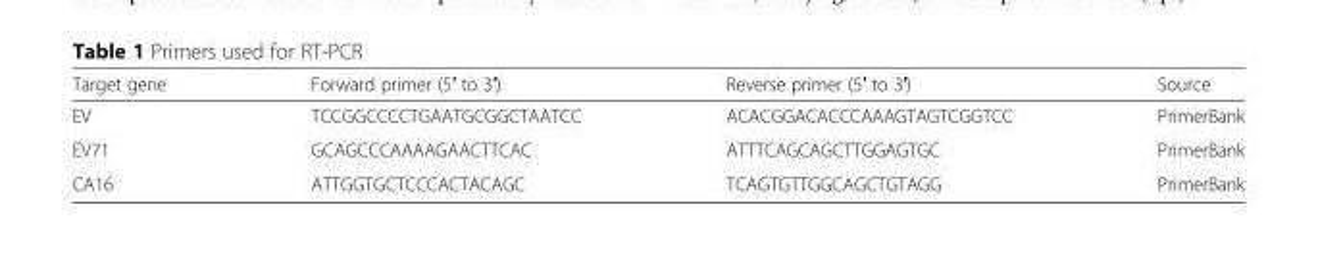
<table><thead><tr><td>Target gene</td><td>Forward primer (5′ to 3′)</td><td>Reverse primer (5′ to 3′)</td><td>Source</td></tr></thead><tbody><tr><td>EV</td><td>TCCGGCCCCTGAATGCGGCTAATCC</td><td>ACACGGACACCCAAAGTAGTCGGTCC</td><td>PrimerBank</td></tr><tr><td>EV71</td><td>GCAGCCCAAAAGAACTTCAC</td><td>ATTTCAGCAGCTTGGAGTGC</td><td>PrimerBank</td></tr><tr><td>CA16</td><td>ATTGGTGCTCCCACTACAGC</td><td>TCAGTGTTGGCAGCTGTAGG</td><td>PrimerBank</td></tr></tbody></table>